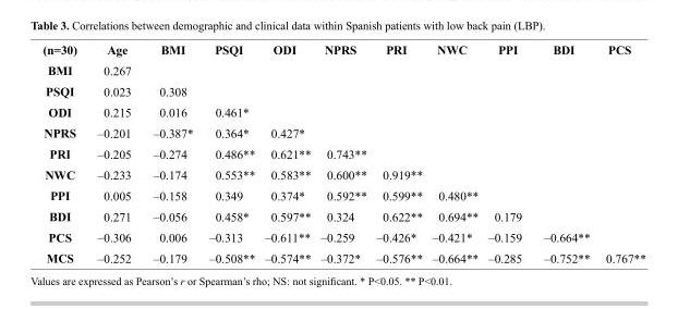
<table><thead><tr><td>(n=30)</td><td>Age</td><td>BMI</td><td>PSQI</td><td>ODI</td><td>NPRS</td><td>PRI</td><td>NWC</td><td>PPI</td><td>BDI</td><td>PCS</td></tr></thead><tbody><tr><td>BMI</td><td>0.267</td><td></td><td></td><td></td><td></td><td></td><td></td><td></td><td></td><td></td></tr><tr><td>PSQI</td><td>0.023</td><td>0.308</td><td></td><td></td><td></td><td></td><td></td><td></td><td></td><td></td></tr><tr><td>ODI</td><td>0.215</td><td>0.016</td><td>0.461*</td><td></td><td></td><td></td><td></td><td></td><td></td><td></td></tr><tr><td>NPRS</td><td>–0.201</td><td>–0.387*</td><td>0.364*</td><td>0.427*</td><td></td><td></td><td></td><td></td><td></td><td></td></tr><tr><td>PRI</td><td>–0.205</td><td>–0.274</td><td>0.486**</td><td>0.621**</td><td>0.743**</td><td></td><td></td><td></td><td></td><td></td></tr><tr><td>NWC</td><td>–0.233</td><td>–0.174</td><td>0.553**</td><td>0.583**</td><td>0.600**</td><td>0.919**</td><td></td><td></td><td></td><td></td></tr><tr><td>PPI</td><td>0.005</td><td>–0.158</td><td>0.349</td><td>0.374*</td><td>0.592**</td><td>0.599**</td><td>0.480**</td><td></td><td></td><td></td></tr><tr><td>BDI</td><td>0.271</td><td>–0.056</td><td>0.458*</td><td>0.597**</td><td>0.324</td><td>0.622**</td><td>0.694**</td><td>0.179</td><td></td><td></td></tr><tr><td>PCS</td><td>–0.306</td><td>0.006</td><td>–0.313</td><td>–0.611**</td><td>–0.259</td><td>–0.426*</td><td>–0.421*</td><td>–0.159</td><td>–0.664**</td><td></td></tr><tr><td>MCS</td><td>–0.252</td><td>–0.179</td><td>–0.508**</td><td>–0.574**</td><td>–0.372*</td><td>–0.576**</td><td>–0.664**</td><td>–0.285</td><td>–0.752**</td><td>0.767**</td></tr></tbody></table>